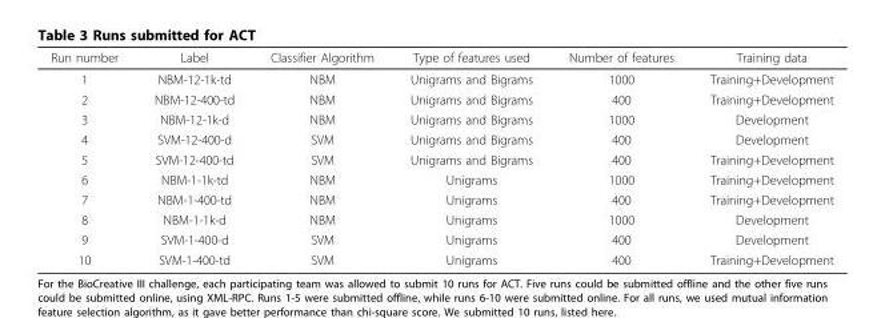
<table><thead><tr><td>Run number</td><td>Label</td><td>Classifier Algorithm</td><td>Type of features used</td><td>Number of features</td><td>Training data</td></tr></thead><tbody><tr><td>1</td><td>NBM-12-1k-td</td><td>NBM</td><td>Unigrams and Bigrams</td><td>1000</td><td>Training+Development</td></tr><tr><td>2</td><td>NBM-12-400-td</td><td>NBM</td><td>Unigrams and Bigrams</td><td>400</td><td>Training+Development</td></tr><tr><td>3</td><td>NBM-12-1k-d</td><td>NBM</td><td>Unigrams and Bigrams</td><td>1000</td><td>Development</td></tr><tr><td>4</td><td>SVM-12-400-d</td><td>SVM</td><td>Unigrams and Bigrams</td><td>400</td><td>Development</td></tr><tr><td>5</td><td>SVM-12-400-td</td><td>SVM</td><td>Unigrams and Bigrams</td><td>400</td><td>Training+Development</td></tr><tr><td>6</td><td>NBM-1-1k-td</td><td>NBM</td><td>Unigrams</td><td>1000</td><td>Training+Development</td></tr><tr><td>7</td><td>NBM-1-400-td</td><td>NBM</td><td>Unigrams</td><td>400</td><td>Training+Development</td></tr><tr><td>8</td><td>NBM-1-1k-d</td><td>NBM</td><td>Unigrams</td><td>1000</td><td>Development</td></tr><tr><td>9</td><td>SVM-1-400-d</td><td>SVM</td><td>Unigrams</td><td>400</td><td>Development</td></tr><tr><td>10</td><td>SVM-1-400-td</td><td>SVM</td><td>Unigrams</td><td>400</td><td>Training+Development</td></tr></tbody></table>